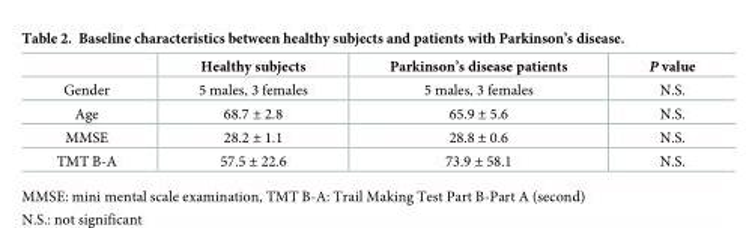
<table><thead><tr><td></td><td>Healthy subjects</td><td>Parkinson’s disease patients</td><td>P value</td></tr></thead><tbody><tr><td>Gender</td><td>5 males, 3 females</td><td>5 males, 3 females</td><td>N.S.</td></tr><tr><td>Age</td><td>68.7 ± 2.8</td><td>65.9 ± 5.6</td><td>N.S.</td></tr><tr><td>MMSE</td><td>28.2 ± 1.1</td><td>28.8 ± 0.6</td><td>N.S.</td></tr><tr><td>TMT B-A</td><td>57.5 ± 22.6</td><td>73.9 ± 58.1</td><td>N.S.</td></tr></tbody></table>